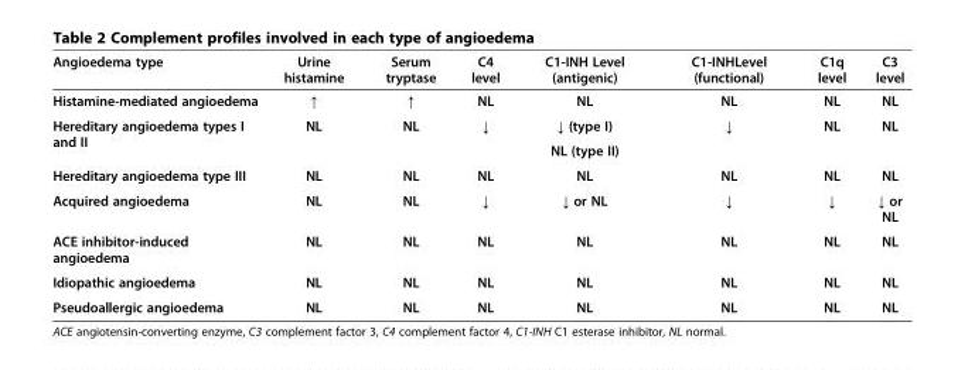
<table><thead><tr><td>Angioedema type</td><td>Urine histamine</td><td>Serum tryptase</td><td>C4 level</td><td>C1-INH Level (antigenic)</td><td>C1-INHLevel (functional)</td><td>C1q level</td><td>C3 level</td></tr></thead><tbody><tr><td>Histamine-mediated angioedema</td><td>↑</td><td>↑</td><td>NL</td><td>NL</td><td>NL</td><td>NL</td><td>NL</td></tr><tr><td rowspan="2">Hereditary angioedema types I and II</td><td rowspan="2">NL</td><td rowspan="2">NL</td><td rowspan="2">↓</td><td>↓ (type I)</td><td rowspan="2">↓</td><td rowspan="2">NL</td><td rowspan="2">NL</td></tr><tr><td>NL (type II)</td></tr><tr><td>Hereditary angioedema type III</td><td>NL</td><td>NL</td><td>NL</td><td>NL</td><td>NL</td><td>NL</td><td>NL</td></tr><tr><td>Acquired angioedema</td><td>NL</td><td>NL</td><td>↓</td><td>↓ or NL</td><td>↓</td><td>↓</td><td>↓ or NL</td></tr><tr><td>ACE inhibitor-induced angioedema</td><td>NL</td><td>NL</td><td>NL</td><td>NL</td><td>NL</td><td>NL</td><td>NL</td></tr><tr><td>Idiopathic angioedema</td><td>NL</td><td>NL</td><td>NL</td><td>NL</td><td>NL</td><td>NL</td><td>NL</td></tr><tr><td>Pseudoallergic angioedema</td><td>NL</td><td>NL</td><td>NL</td><td>NL</td><td>NL</td><td>NL</td><td>NL</td></tr></tbody></table>